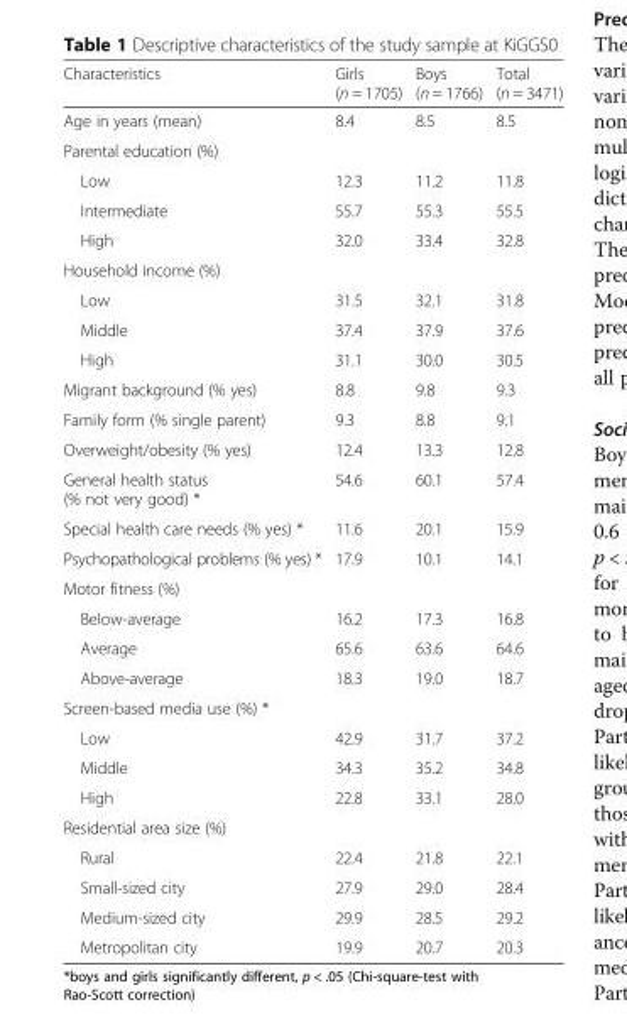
<table><thead><tr><td>Characteristics</td><td>Girls (n = 1705)</td><td>Boys (n = 1766)</td><td>Total (n = 3471)</td></tr></thead><tbody><tr><td>Age in years (mean)</td><td>8.4</td><td>8.5</td><td>8.5</td></tr><tr><td colspan="4">Parental education (%)</td></tr><tr><td>Low</td><td>12.3</td><td>11.2</td><td>11.8</td></tr><tr><td>Intermediate</td><td>55.7</td><td>55.3</td><td>55.5</td></tr><tr><td>High</td><td>32.0</td><td>33.4</td><td>32.8</td></tr><tr><td colspan="4">Household income (%)</td></tr><tr><td>Low</td><td>31.5</td><td>32.1</td><td>31.8</td></tr><tr><td>Middle</td><td>37.4</td><td>37.9</td><td>37.6</td></tr><tr><td>High</td><td>31.1</td><td>30.0</td><td>30.5</td></tr><tr><td>Migrant background (% yes)</td><td>8.8</td><td>9.8</td><td>9.3</td></tr><tr><td>Family form (% single parent)</td><td>9.3</td><td>8.8</td><td>9.1</td></tr><tr><td>Overweight/obesity (% yes)</td><td>12.4</td><td>13.3</td><td>12.8</td></tr><tr><td>General health status (% not very good) *</td><td>54.6</td><td>60.1</td><td>57.4</td></tr><tr><td>Special health care needs (% yes) *</td><td>11.6</td><td>20.1</td><td>15.9</td></tr><tr><td>Psychopathological problems (% yes) *</td><td>17.9</td><td>10.1</td><td>14.1</td></tr><tr><td colspan="4">Motor fitness (%)</td></tr><tr><td>Below-average</td><td>16.2</td><td>17.3</td><td>16.8</td></tr><tr><td>Average</td><td>65.6</td><td>63.6</td><td>64.6</td></tr><tr><td>Above-average</td><td>18.3</td><td>19.0</td><td>18.7</td></tr><tr><td colspan="4">Screen-based media use (%) *</td></tr><tr><td>Low</td><td>42.9</td><td>31.7</td><td>37.2</td></tr><tr><td>Middle</td><td>34.3</td><td>35.2</td><td>34.8</td></tr><tr><td>High</td><td>22.8</td><td>33.1</td><td>28.0</td></tr><tr><td colspan="4">Residential area size (%)</td></tr><tr><td>Rural</td><td>22.4</td><td>21.8</td><td>22.1</td></tr><tr><td>Small-sized city</td><td>27.9</td><td>29.0</td><td>28.4</td></tr><tr><td>Medium-sized city</td><td>29.9</td><td>28.5</td><td>29.2</td></tr><tr><td>Metropolitan city</td><td>19.9</td><td>20.7</td><td>20.3</td></tr></tbody></table>